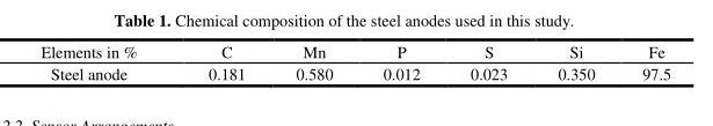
<table><thead><tr><td>Elements in %</td><td>C</td><td>Mn</td><td>P</td><td>S</td><td>Si</td><td>Fe</td></tr></thead><tbody><tr><td>Steel anode</td><td>0.181</td><td>0.580</td><td>0.012</td><td>0.023</td><td>0.350</td><td>97.5</td></tr></tbody></table>